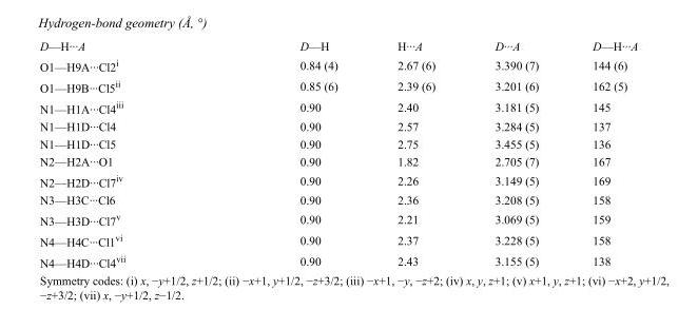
<table><tbody><tr><td>D—H···A</td><td>D—H</td><td>H···A</td><td>D···A</td><td>D—H···A</td></tr><tr><td>O1—H9A···Cl2<sup>i</sup></td><td>0.84 (4)</td><td>2.67 (6)</td><td>3.390 (7)</td><td>144 (6)</td></tr><tr><td>O1—H9B···Cl5<sup>ii</sup></td><td>0.85 (6)</td><td>2.39 (6)</td><td>3.201 (6)</td><td>162 (5)</td></tr><tr><td>N1—H1A···Cl4<sup>iii</sup></td><td>0.90</td><td>2.40</td><td>3.181 (5)</td><td>145</td></tr><tr><td>N1—H1D···Cl4</td><td>0.90</td><td>2.57</td><td>3.284 (5)</td><td>137</td></tr><tr><td>N1—H1D···Cl5</td><td>0.90</td><td>2.75</td><td>3.455 (5)</td><td>136</td></tr><tr><td>N2—H2A···O1</td><td>0.90</td><td>1.82</td><td>2.705 (7)</td><td>167</td></tr><tr><td>N2—H2D···Cl7<sup>iv</sup></td><td>0.90</td><td>2.26</td><td>3.149 (5)</td><td>169</td></tr><tr><td>N3—H3C···Cl6</td><td>0.90</td><td>2.36</td><td>3.208 (5)</td><td>158</td></tr><tr><td>N3—H3D···Cl7<sup>v</sup></td><td>0.90</td><td>2.21</td><td>3.069 (5)</td><td>159</td></tr><tr><td>N4—H4C···Cl1<sup>vi</sup></td><td>0.90</td><td>2.37</td><td>3.228 (5)</td><td>158</td></tr><tr><td>N4—H4D···Cl4<sup>vii</sup></td><td>0.90</td><td>2.43</td><td>3.155 (5)</td><td>138</td></tr></tbody></table>